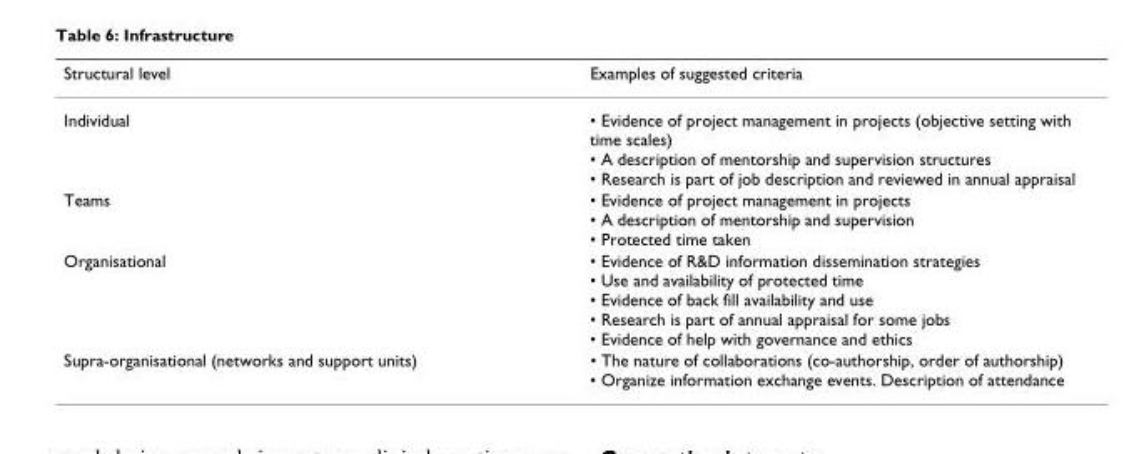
<table><thead><tr><td>Structural level</td><td>Examples of suggested criteria</td></tr></thead><tbody><tr><td>Individual</td><td>• Evidence of project management in projects (objective setting with time scales) • A description of mentorship and supervision structures • Research is part of job description and reviewed in annual appraisal</td></tr><tr><td>Teams</td><td>• Evidence of project management in projects • A description of mentorship and supervision • Protected time taken</td></tr><tr><td>Organisational</td><td>• Evidence of R&amp;D information dissemination strategies • Use and availability of protected time • Evidence of back fill availability and use • Research is part of annual appraisal for some jobs • Evidence of help with governance and ethics</td></tr><tr><td>Supra-organisational (networks and support units)</td><td>• The nature of collaborations (co-authorship, order of authorship) • Organize information exchange events. Description of attendance</td></tr></tbody></table>